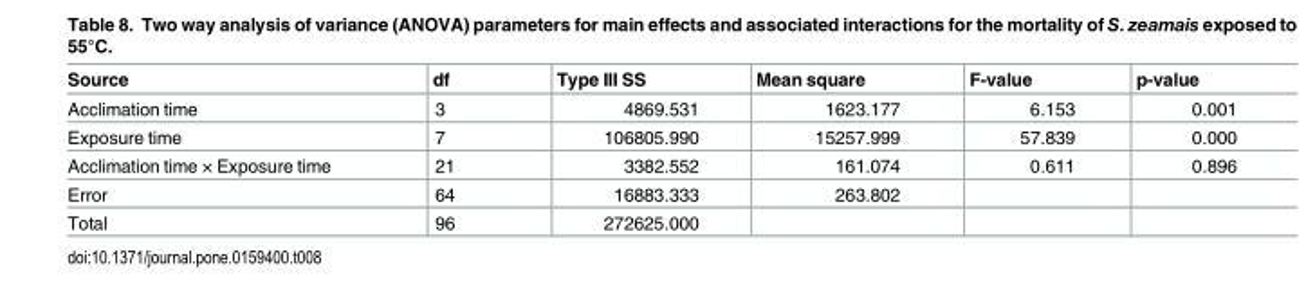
<table><thead><tr><td>Source</td><td>df</td><td>Type III SS</td><td>Mean square</td><td>F-value</td><td>p-value</td></tr></thead><tbody><tr><td>Acclimation time</td><td>3</td><td>4869.531</td><td>1623.177</td><td>6.153</td><td>0.001</td></tr><tr><td>Exposure time</td><td>7</td><td>106805.990</td><td>15257.999</td><td>57.839</td><td>0.000</td></tr><tr><td>Acclimation time × Exposure time</td><td>21</td><td>3382.552</td><td>161.074</td><td>0.611</td><td>0.896</td></tr><tr><td>Error</td><td>64</td><td>16883.333</td><td>263.802</td><td></td><td></td></tr><tr><td>Total</td><td>96</td><td>272625.000</td><td></td><td></td><td></td></tr></tbody></table>